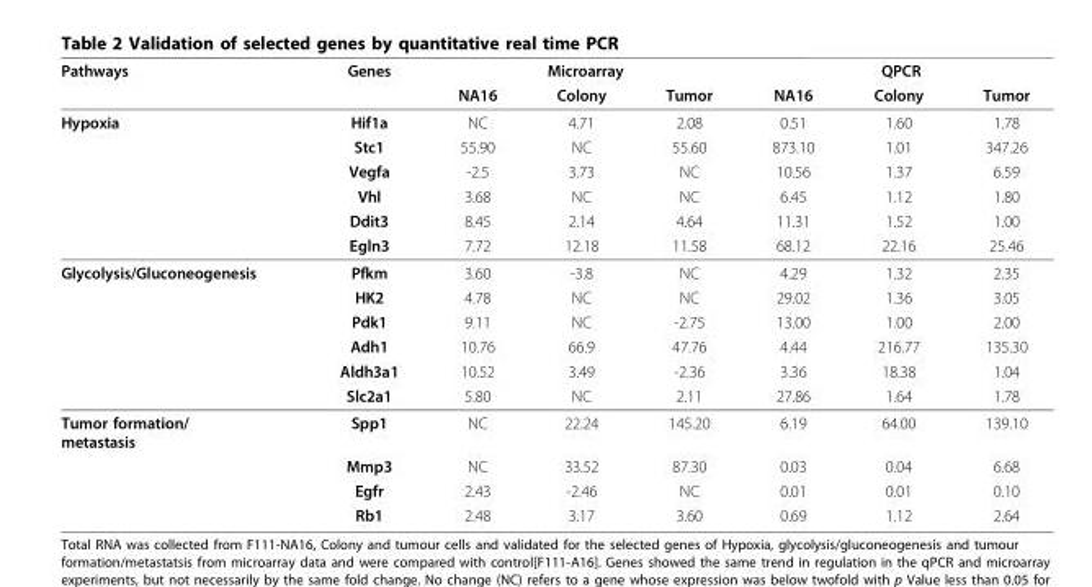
<table><thead><tr><td rowspan="2">Pathways</td><td rowspan="2">Genes</td><td colspan="3">Microarray</td><td colspan="3">QPCR</td></tr><tr><td>NA16</td><td>Colony</td><td>Tumor</td><td>NA16</td><td>Colony</td><td>Tumor</td></tr></thead><tbody><tr><td rowspan="6">Hypoxia</td><td>Hif1a</td><td>NC</td><td>4.71</td><td>2.08</td><td>0.51</td><td>1.60</td><td>1.78</td></tr><tr><td>Stc1</td><td>55.90</td><td>NC</td><td>55.60</td><td>873.10</td><td>1.01</td><td>347.26</td></tr><tr><td>Vegfa</td><td>-2.5</td><td>3.73</td><td>NC</td><td>10.56</td><td>1.37</td><td>6.59</td></tr><tr><td>Vhl</td><td>3.68</td><td>NC</td><td>NC</td><td>6.45</td><td>1.12</td><td>1.80</td></tr><tr><td>Ddit3</td><td>8.45</td><td>2.14</td><td>4.64</td><td>11.31</td><td>1.52</td><td>1.00</td></tr><tr><td>Egln3</td><td>7.72</td><td>12.18</td><td>11.58</td><td>68.12</td><td>22.16</td><td>25.46</td></tr><tr><td rowspan="6">Glycolysis/Gluconeogenesis</td><td>Pfkm</td><td>3.60</td><td>-3.8</td><td>NC</td><td>4.29</td><td>1.32</td><td>2.35</td></tr><tr><td>HK2</td><td>4.78</td><td>NC</td><td>NC</td><td>29.02</td><td>1.36</td><td>3.05</td></tr><tr><td>Pdk1</td><td>9.11</td><td>NC</td><td>-2.75</td><td>13.00</td><td>1.00</td><td>2.00</td></tr><tr><td>Adh1</td><td>10.76</td><td>66.9</td><td>47.76</td><td>4.44</td><td>216.77</td><td>135.30</td></tr><tr><td>Aldh3a1</td><td>10.52</td><td>3.49</td><td>-2.36</td><td>3.36</td><td>18.38</td><td>1.04</td></tr><tr><td>Slc2a1</td><td>5.80</td><td>NC</td><td>2.11</td><td>27.86</td><td>1.64</td><td>1.78</td></tr><tr><td rowspan="4">Tumor formation/ metastasis</td><td>Spp1</td><td>NC</td><td>22.24</td><td>145.20</td><td>6.19</td><td>64.00</td><td>139.10</td></tr><tr><td>Mmp3</td><td>NC</td><td>33.52</td><td>87.30</td><td>0.03</td><td>0.04</td><td>6.68</td></tr><tr><td>Egfr</td><td>2.43</td><td>-2.46</td><td>NC</td><td>0.01</td><td>0.01</td><td>0.10</td></tr><tr><td>Rb1</td><td>2.48</td><td>3.17</td><td>3.60</td><td>0.69</td><td>1.12</td><td>2.64</td></tr></tbody></table>